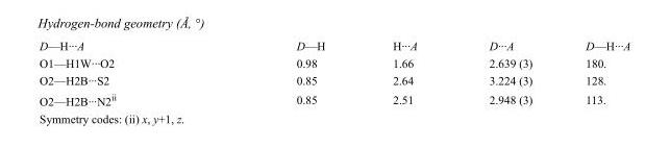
<table><tbody><tr><td>D—H···A</td><td>D—H</td><td>H···A</td><td>D···A</td><td>D—H···A</td></tr><tr><td>O1—H1W···O2</td><td>0.98</td><td>1.66</td><td>2.639 (3)</td><td>180.</td></tr><tr><td>O2—H2B···S2</td><td>0.85</td><td>2.64</td><td>3.224 (3)</td><td>128.</td></tr><tr><td>O2—H2B···N2<sup>ii</sup></td><td>0.85</td><td>2.51</td><td>2.948 (3)</td><td>113.</td></tr></tbody></table>